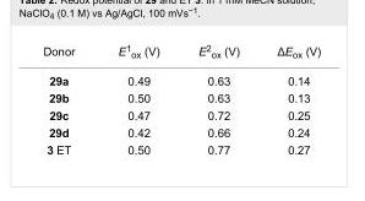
<table><tbody><tr><td>Donor</td><td>E<sup>1</sup><sub>ox</sub> (V)</td><td>E<sup>2</sup><sub>ox</sub> (V)</td><td>ΔE<sub>ox</sub> (V)</td></tr><tr><td>29a</td><td>0.49</td><td>0.63</td><td>0.14</td></tr><tr><td>29b</td><td>0.50</td><td>0.63</td><td>0.13</td></tr><tr><td>29c</td><td>0.47</td><td>0.72</td><td>0.25</td></tr><tr><td>29d</td><td>0.42</td><td>0.66</td><td>0.24</td></tr><tr><td>3 ET</td><td>0.50</td><td>0.77</td><td>0.27</td></tr></tbody></table>